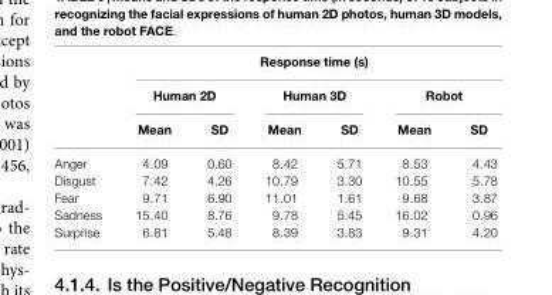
<table><thead><tr><td rowspan="3"></td><td colspan="6">Response time (s)</td></tr><tr><td colspan="2">Human 2D</td><td colspan="2">Human 3D</td><td colspan="2">Robot</td></tr><tr><td>Mean</td><td>SD</td><td>Mean</td><td>SD</td><td>Mean</td><td>SD</td></tr></thead><tbody><tr><td>Anger</td><td>4.09</td><td>0.60</td><td>8.42</td><td>5.71</td><td>8.53</td><td>4.43</td></tr><tr><td>Disgust</td><td>7.42</td><td>4.26</td><td>10.79</td><td>3.30</td><td>10.55</td><td>5.78</td></tr><tr><td>Fear</td><td>9.71</td><td>6.90</td><td>11.01</td><td>1.61</td><td>9.68</td><td>3.87</td></tr><tr><td>Sadness</td><td>15.40</td><td>8.76</td><td>9.78</td><td>5.45</td><td>16.02</td><td>0.96</td></tr><tr><td>Surprise</td><td>6.81</td><td>5.48</td><td>8.39</td><td>3.83</td><td>9.31</td><td>4.20</td></tr></tbody></table>